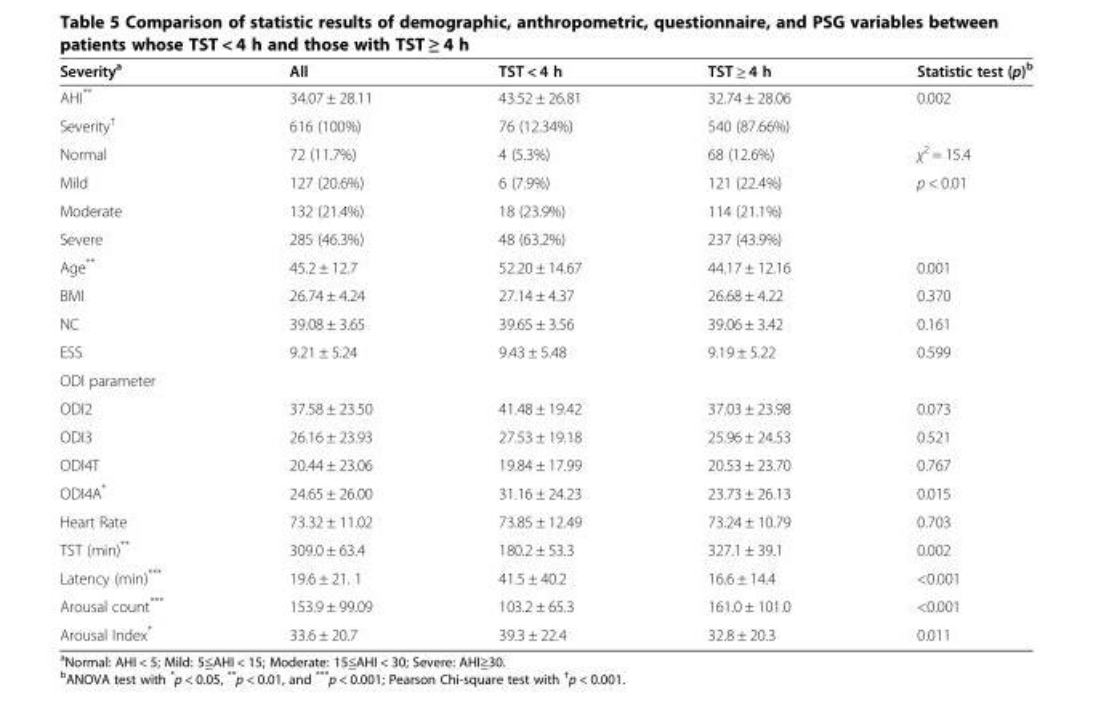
<table><thead><tr><td>Severity<sup>a</sup></td><td>All</td><td>TST &lt; 4 h</td><td>TST ≥ 4 h</td><td>Statistic test (p)<sup>b</sup></td></tr></thead><tbody><tr><td>AHI**</td><td>34.07 ± 28.11</td><td>43.52 ± 26.81</td><td>32.74 ± 28.06</td><td>0.002</td></tr><tr><td>Severity<sup>†</sup></td><td>616 (100%)</td><td>76 (12.34%)</td><td>540 (87.66%)</td><td></td></tr><tr><td>Normal</td><td>72 (11.7%)</td><td>4 (5.3%)</td><td>68 (12.6%)</td><td>χ<sup>2</sup> = 15.4</td></tr><tr><td>Mild</td><td>127 (20.6%)</td><td>6 (7.9%)</td><td>121 (22.4%)</td><td rowspan="3">p &lt; 0.01</td></tr><tr><td>Moderate</td><td>132 (21.4%)</td><td>18 (23.9%)</td><td>114 (21.1%)</td></tr><tr><td>Severe</td><td>285 (46.3%)</td><td>48 (63.2%)</td><td>237 (43.9%)</td></tr><tr><td>Age**</td><td>45.2 ± 12.7</td><td>52.20 ± 14.67</td><td>44.17 ± 12.16</td><td>0.001</td></tr><tr><td>BMI</td><td>26.74 ± 4.24</td><td>27.14 ± 4.37</td><td>26.68 ± 4.22</td><td>0.370</td></tr><tr><td>NC</td><td>39.08 ± 3.65</td><td>39.65 ± 3.56</td><td>39.06 ± 3.42</td><td>0.161</td></tr><tr><td>ESS</td><td>9.21 ± 5.24</td><td>9.43 ± 5.48</td><td>9.19 ± 5.22</td><td>0.599</td></tr><tr><td colspan="5">ODI parameter</td></tr><tr><td>ODI2</td><td>37.58 ± 23.50</td><td>41.48 ± 19.42</td><td>37.03 ± 23.98</td><td>0.073</td></tr><tr><td>ODI3</td><td>26.16 ± 23.93</td><td>27.53 ± 19.18</td><td>25.96 ± 24.53</td><td>0.521</td></tr><tr><td>ODI4T</td><td>20.44 ± 23.06</td><td>19.84 ± 17.99</td><td>20.53 ± 23.70</td><td>0.767</td></tr><tr><td>ODI4A*</td><td>24.65 ± 26.00</td><td>31.16 ± 24.23</td><td>23.73 ± 26.13</td><td>0.015</td></tr><tr><td>Heart Rate</td><td>73.32 ± 11.02</td><td>73.85 ± 12.49</td><td>73.24 ± 10.79</td><td>0.703</td></tr><tr><td>TST (min)**</td><td>309.0 ± 63.4</td><td>180.2 ± 53.3</td><td>327.1 ± 39.1</td><td>0.002</td></tr><tr><td>Latency (min)***</td><td>19.6 ± 21. 1</td><td>41.5 ± 40.2</td><td>16.6 ± 14.4</td><td>&lt;0.001</td></tr><tr><td>Arousal count***</td><td>153.9 ± 99.09</td><td>103.2 ± 65.3</td><td>161.0 ± 101.0</td><td>&lt;0.001</td></tr><tr><td>Arousal Index*</td><td>33.6 ± 20.7</td><td>39.3 ± 22.4</td><td>32.8 ± 20.3</td><td>0.011</td></tr></tbody></table>